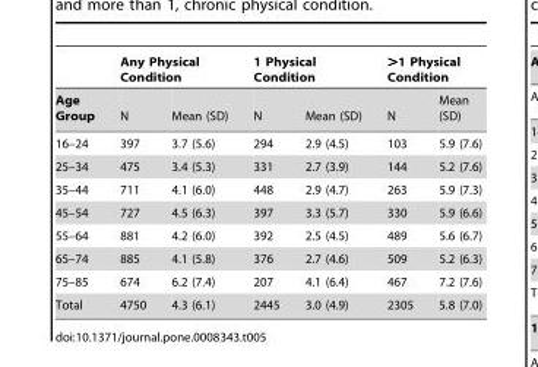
<table><thead><tr><td rowspan="2">Age Group</td><td colspan="2">Any Physical Condition</td><td colspan="2">1 Physical Condition</td><td colspan="2">&gt;1 Physical Condition</td></tr><tr><td>N</td><td>Mean (SD)</td><td>N</td><td>Mean (SD)</td><td>N</td><td>Mean (SD)</td></tr></thead><tbody><tr><td>16–24</td><td>397</td><td>3.7 (5.6)</td><td>294</td><td>2.9 (4.5)</td><td>103</td><td>5.9 (7.6)</td></tr><tr><td>25–34</td><td>475</td><td>3.4 (5.3)</td><td>331</td><td>2.7 (3.9)</td><td>144</td><td>5.2 (7.6)</td></tr><tr><td>35–44</td><td>711</td><td>4.1 (6.0)</td><td>448</td><td>2.9 (4.7)</td><td>263</td><td>5.9 (7.3)</td></tr><tr><td>45–54</td><td>727</td><td>4.5 (6.3)</td><td>397</td><td>3.3 (5.7)</td><td>330</td><td>5.9 (6.6)</td></tr><tr><td>55–64</td><td>881</td><td>4.2 (6.0)</td><td>392</td><td>2.5 (4.5)</td><td>489</td><td>5.6 (6.7)</td></tr><tr><td>65–74</td><td>885</td><td>4.1 (5.8)</td><td>376</td><td>2.7 (4.6)</td><td>509</td><td>5.2 (6.3)</td></tr><tr><td>75–85</td><td>674</td><td>6.2 (7.4)</td><td>207</td><td>4.1 (6.4)</td><td>467</td><td>7.2 (7.6)</td></tr><tr><td>Total</td><td>4750</td><td>4.3 (6.1)</td><td>2445</td><td>3.0 (4.9)</td><td>2305</td><td>5.8 (7.0)</td></tr></tbody></table>